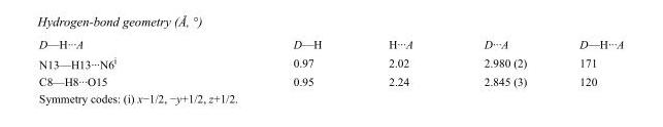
<table><tbody><tr><td>D—H···A</td><td>D—H</td><td>H···A</td><td>D···A</td><td>D—H···A</td></tr><tr><td>N13—H13···N6<sup>i</sup></td><td>0.97</td><td>2.02</td><td>2.980 (2)</td><td>171</td></tr><tr><td>C8—H8···O15</td><td>0.95</td><td>2.24</td><td>2.845 (3)</td><td>120</td></tr></tbody></table>